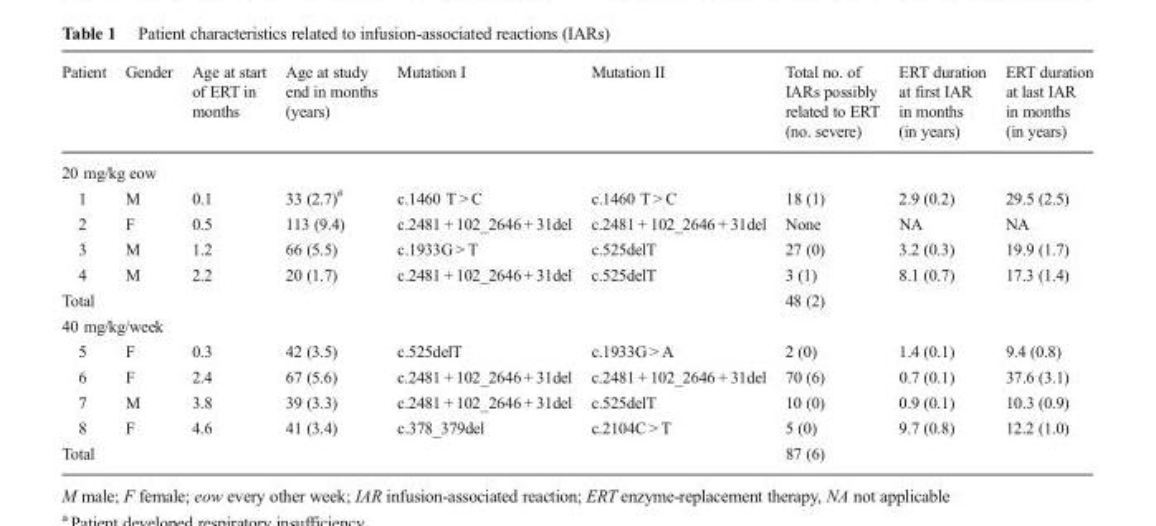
<table><thead><tr><td>Patient</td><td>Gender</td><td>Age at start of ERT in months</td><td>Age at study end in months (years)</td><td>Mutation I</td><td>Mutation II</td><td>Total no. of IARs possibly related to ERT (no. severe)</td><td>ERT duration at first IAR in months (in years)</td><td>ERT duration at last IAR in months (in years)</td></tr></thead><tbody><tr><td colspan="9">20 mg/kg eow</td></tr><tr><td>1</td><td>M</td><td>0.1</td><td>33 (2.7)<sup>#</sup></td><td>c.1460 T &gt; C</td><td>c.1460 T &gt; C</td><td>18 (1)</td><td>2.9 (0.2)</td><td>29.5 (2.5)</td></tr><tr><td>2</td><td>F</td><td>0.5</td><td>113 (9.4)</td><td>c.2481 + 102_2646 + 31del</td><td>c.2481 + 102_2646 + 31del</td><td>None</td><td>NA</td><td>NA</td></tr><tr><td>3</td><td>M</td><td>1.2</td><td>66 (5.5)</td><td>c.1933G &gt; T</td><td>c.525delT</td><td>27 (0)</td><td>3.2 (0.3)</td><td>19.9 (1.7)</td></tr><tr><td>4</td><td>M</td><td>2.2</td><td>20 (1.7)</td><td>c.2481 + 102_2646 + 31del</td><td>c.525delT</td><td>3 (1)</td><td>8.1 (0.7)</td><td>17.3 (1.4)</td></tr><tr><td>Total</td><td></td><td></td><td></td><td></td><td></td><td>48 (2)</td><td></td><td></td></tr><tr><td colspan="9">40 mg/kg/week</td></tr><tr><td>5</td><td>F</td><td>0.3</td><td>42 (3.5)</td><td>c.525delT</td><td>c.1933G &gt; A</td><td>2 (0)</td><td>1.4 (0.1)</td><td>9.4 (0.8)</td></tr><tr><td>6</td><td>F</td><td>2.4</td><td>67 (5.6)</td><td>c.2481 + 102_2646 + 31del</td><td>c.2481 + 102_2646 + 31del</td><td>70 (6)</td><td>0.7 (0.1)</td><td>37.6 (3.1)</td></tr><tr><td>7</td><td>M</td><td>3.8</td><td>39 (3.3)</td><td>c.2481 + 102_2646 + 31del</td><td>c.525delT</td><td>10 (0)</td><td>0.9 (0.1)</td><td>10.3 (0.9)</td></tr><tr><td>8</td><td>F</td><td>4.6</td><td>41 (3.4)</td><td>c.378_379del</td><td>c.2104C &gt; T</td><td>5 (0)</td><td>9.7 (0.8)</td><td>12.2 (1.0)</td></tr><tr><td>Total</td><td></td><td></td><td></td><td></td><td></td><td>87 (6)</td><td></td><td></td></tr></tbody></table>